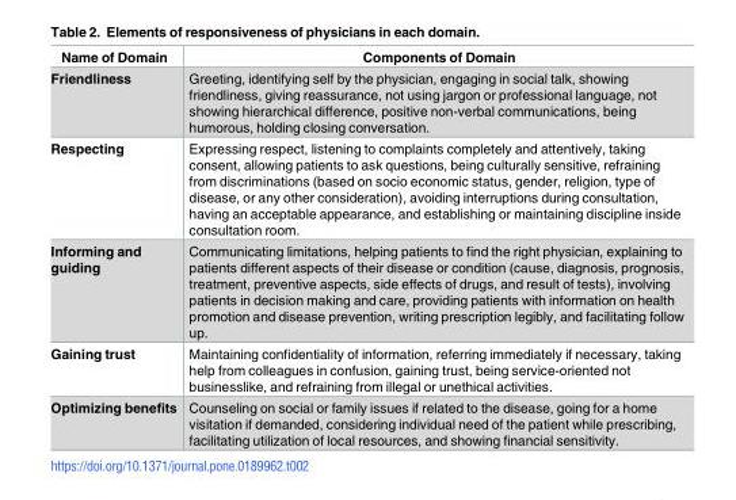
<table><thead><tr><td>Name of Domain</td><td>Components of Domain</td></tr></thead><tbody><tr><td>Friendliness</td><td>Greeting, identifying self by the physician, engaging in social talk, showing friendliness, giving reassurance, not using jargon or professional language, not showing hierarchical difference, positive non-verbal communications, being humorous, holding closing conversation.</td></tr><tr><td>Respecting</td><td>Expressing respect, listening to complaints completely and attentively, taking consent, allowing patients to ask questions, being culturally sensitive, refraining from discriminations (based on socio economic status, gender, religion, type of disease, or any other consideration), avoiding interruptions during consultation, having an acceptable appearance, and establishing or maintaining discipline inside consultation room.</td></tr><tr><td>Informing and guiding</td><td>Communicating limitations, helping patients to find the right physician, explaining to patients different aspects of their disease or condition (cause, diagnosis, prognosis, treatment, preventive aspects, side effects of drugs, and result of tests), involving patients in decision making and care, providing patients with information on health promotion and disease prevention, writing prescription legibly, and facilitating follow up.</td></tr><tr><td>Gaining trust</td><td>Maintaining confidentiality of information, referring immediately if necessary, taking help from colleagues in confusion, gaining trust, being service-oriented not businesslike, and refraining from illegal or unethical activities.</td></tr><tr><td>Optimizing benefits</td><td>Counseling on social or family issues if related to the disease, going for a home visitation if demanded, considering individual need of the patient while prescribing, facilitating utilization of local resources, and showing financial sensitivity.</td></tr></tbody></table>